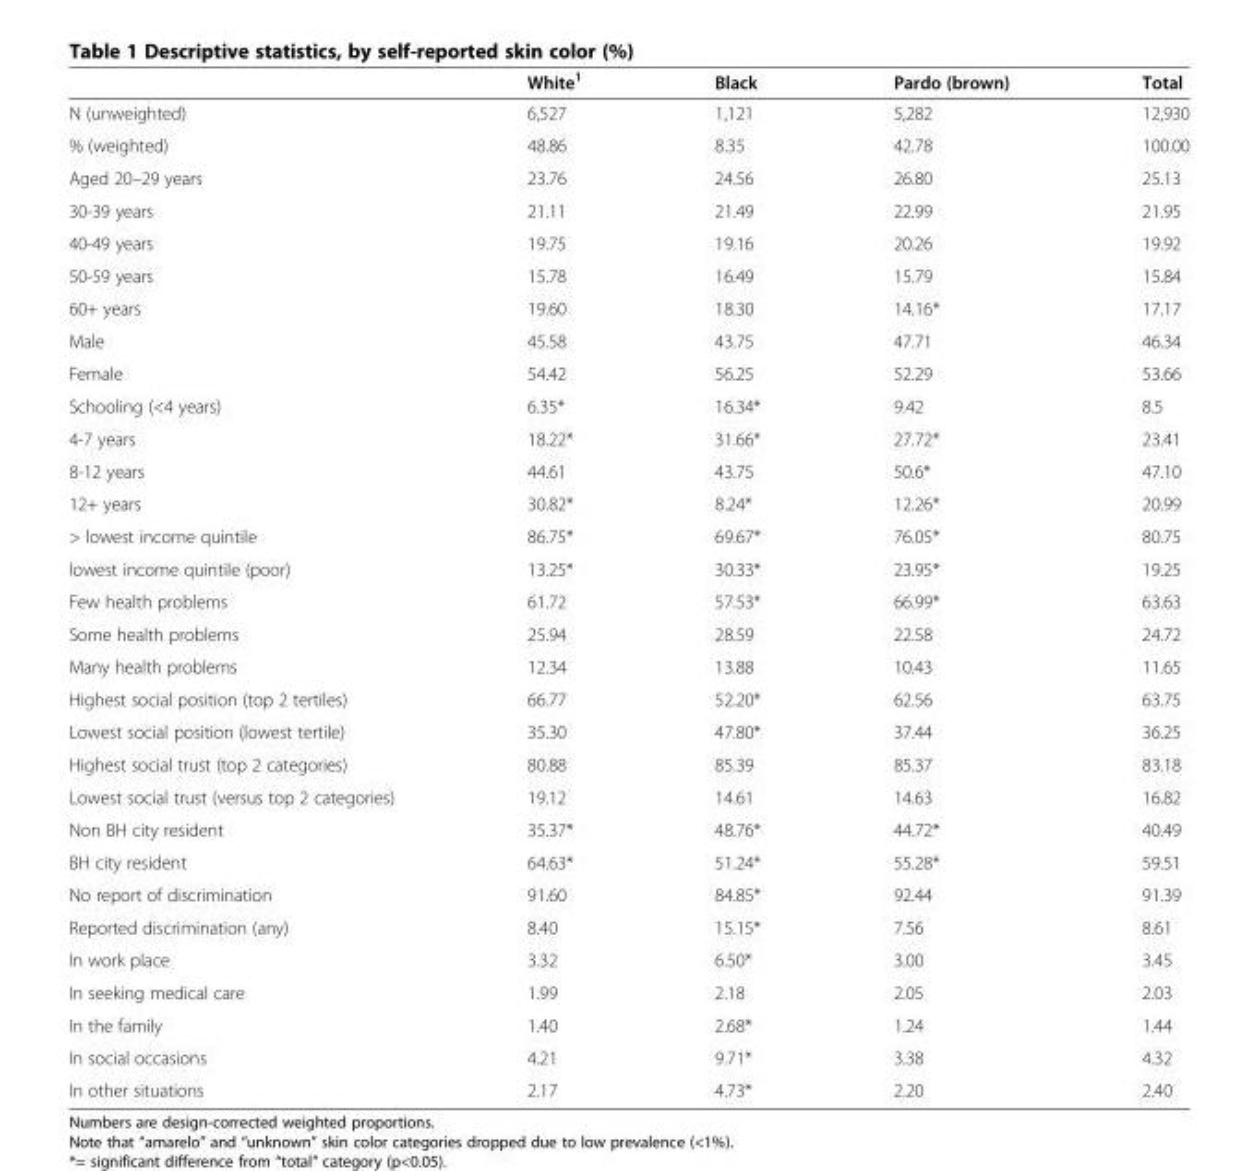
<table><thead><tr><td></td><td>White<sup>1</sup></td><td>Black</td><td>Pardo (brown)</td><td>Total</td></tr></thead><tbody><tr><td>N (unweighted)</td><td>6,527</td><td>1,121</td><td>5,282</td><td>12,930</td></tr><tr><td>% (weighted)</td><td>48.86</td><td>8.35</td><td>42.78</td><td>100.00</td></tr><tr><td>Aged 20–29 years</td><td>23.76</td><td>24.56</td><td>26.80</td><td>25.13</td></tr><tr><td>30-39 years</td><td>21.11</td><td>21.49</td><td>22.99</td><td>21.95</td></tr><tr><td>40-49 years</td><td>19.75</td><td>19.16</td><td>20.26</td><td>19.92</td></tr><tr><td>50-59 years</td><td>15.78</td><td>16.49</td><td>15.79</td><td>15.84</td></tr><tr><td>60+ years</td><td>19.60</td><td>18.30</td><td>14.16*</td><td>17.17</td></tr><tr><td>Male</td><td>45.58</td><td>43.75</td><td>47.71</td><td>46.34</td></tr><tr><td>Female</td><td>54.42</td><td>56.25</td><td>52.29</td><td>53.66</td></tr><tr><td>Schooling (&lt;4 years)</td><td>6.35*</td><td>16.34*</td><td>9.42</td><td>8.5</td></tr><tr><td>4-7 years</td><td>18.22*</td><td>31.66*</td><td>27.72*</td><td>23.41</td></tr><tr><td>8-12 years</td><td>44.61</td><td>43.75</td><td>50.6*</td><td>47.10</td></tr><tr><td>12+ years</td><td>30.82*</td><td>8.24*</td><td>12.26*</td><td>20.99</td></tr><tr><td>&gt; lowest income quintile</td><td>86.75*</td><td>69.67*</td><td>76.05*</td><td>80.75</td></tr><tr><td>lowest income quintile (poor)</td><td>13.25*</td><td>30.33*</td><td>23.95*</td><td>19.25</td></tr><tr><td>Few health problems</td><td>61.72</td><td>57.53*</td><td>66.99*</td><td>63.63</td></tr><tr><td>Some health problems</td><td>25.94</td><td>28.59</td><td>22.58</td><td>24.72</td></tr><tr><td>Many health problems</td><td>12.34</td><td>13.88</td><td>10.43</td><td>11.65</td></tr><tr><td>Highest social position (top 2 tertiles)</td><td>66.77</td><td>52.20*</td><td>62.56</td><td>63.75</td></tr><tr><td>Lowest social position (lowest tertile)</td><td>35.30</td><td>47.80*</td><td>37.44</td><td>36.25</td></tr><tr><td>Highest social trust (top 2 categories)</td><td>80.88</td><td>85.39</td><td>85.37</td><td>83.18</td></tr><tr><td>Lowest social trust (versus top 2 categories)</td><td>19.12</td><td>14.61</td><td>14.63</td><td>16.82</td></tr><tr><td>Non BH city resident</td><td>35.37*</td><td>48.76*</td><td>44.72*</td><td>40.49</td></tr><tr><td>BH city resident</td><td>64.63*</td><td>51.24*</td><td>55.28*</td><td>59.51</td></tr><tr><td>No report of discrimination</td><td>91.60</td><td>84.85*</td><td>92.44</td><td>91.39</td></tr><tr><td>Reported discrimination (any)</td><td>8.40</td><td>15.15*</td><td>7.56</td><td>8.61</td></tr><tr><td>In work place</td><td>3.32</td><td>6.50*</td><td>3.00</td><td>3.45</td></tr><tr><td>In seeking medical care</td><td>1.99</td><td>2.18</td><td>2.05</td><td>2.03</td></tr><tr><td>In the family</td><td>1.40</td><td>2.68*</td><td>1.24</td><td>1.44</td></tr><tr><td>In social occasions</td><td>4.21</td><td>9.71*</td><td>3.38</td><td>4.32</td></tr><tr><td>In other situations</td><td>2.17</td><td>4.73*</td><td>2.20</td><td>2.40</td></tr></tbody></table>